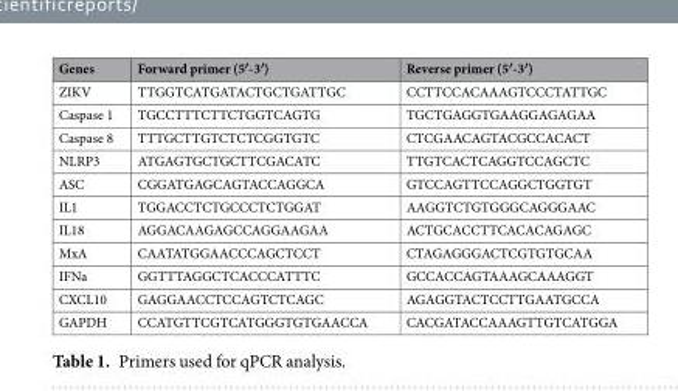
<table><thead><tr><td>Genes</td><td>Forward primer (5′-3′)</td><td>Reverse primer (5′-3′)</td></tr></thead><tbody><tr><td>ZIKV</td><td>TTGGTCATGATACTGCTGATTGC</td><td>CCTTCCACAAAGTCCCTATTGC</td></tr><tr><td>Caspase 1</td><td>TGCCTTTCTTCTGGTCAGTG</td><td>TGCTGAGGTGAAGGAGAGAA</td></tr><tr><td>Caspase 8</td><td>TTTGCTTGTCTCTCGGTGTC</td><td>CTCGAACAGTACGCCACACT</td></tr><tr><td>NLRP3</td><td>ATGAGTGCTGCTTCGACATC</td><td>TTGTCACTCAGGTCCAGCTC</td></tr><tr><td>ASC</td><td>CGGATGAGCAGTACCAGGCA</td><td>GTCCAGTTCCAGGCTGGTGT</td></tr><tr><td>IL1</td><td>TGGACCTCTGCCCTCTGGAT</td><td>AAGGTCTGTGGGCAGGGAAC</td></tr><tr><td>IL18</td><td>AGGACAAGAGCCAGGAAGAA</td><td>ACTGCACCTTCACACAGAGC</td></tr><tr><td>MxA</td><td>CAATATGGAACCCAGCTCCT</td><td>CTAGAGGGACTCGTGTGCAA</td></tr><tr><td>IFNa</td><td>GGTTTAGGCTCACCCATTTC</td><td>GCCACCAGTAAAGCAAAGGT</td></tr><tr><td>CXCL10</td><td>GAGGAACCTCCAGTCTCAGC</td><td>AGAGGTACTCCTTGAATGCCA</td></tr><tr><td>GAPDH</td><td>CCATGTTCGTCATGGGTGTGAACCA</td><td>CACGATACCAAAGTTGTCATGGA</td></tr></tbody></table>